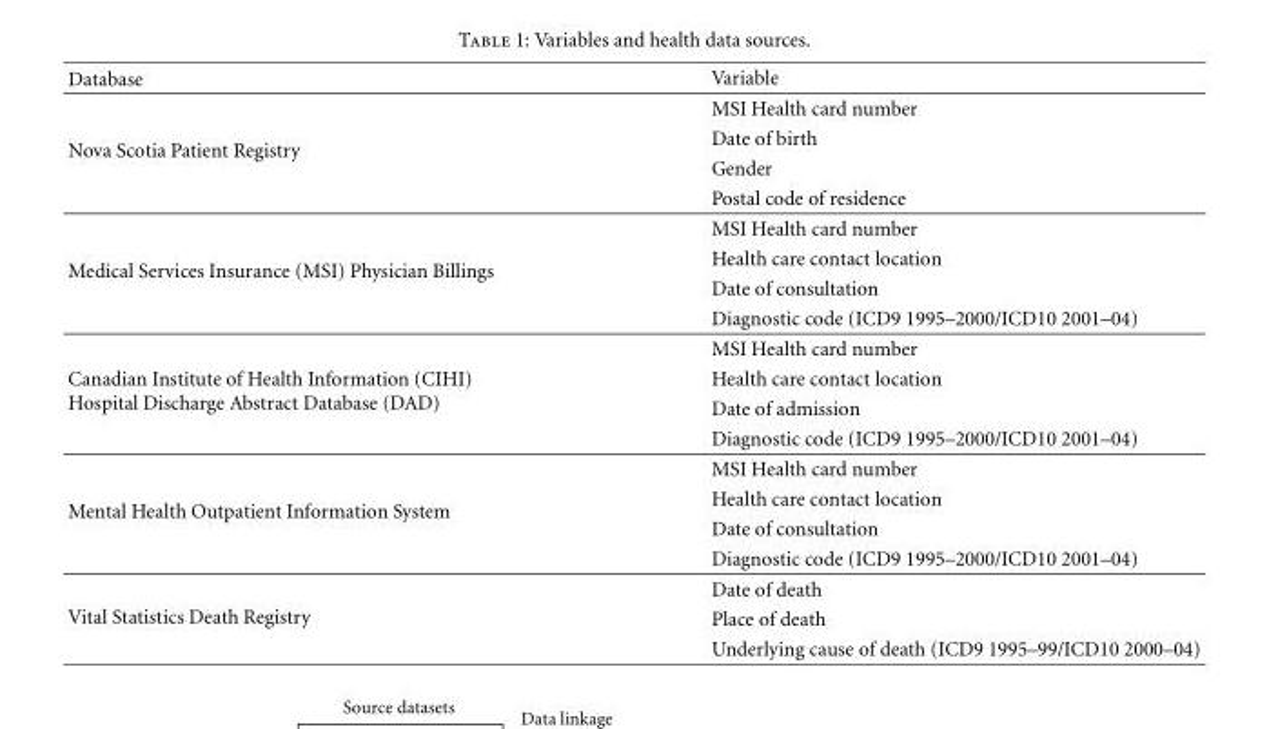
<table><thead><tr><td>Database</td><td>Variable</td></tr></thead><tbody><tr><td rowspan="4">Nova Scotia Patient Registry</td><td>MSI Health card number</td></tr><tr><td>Date of birth</td></tr><tr><td>Gender</td></tr><tr><td>Postal code of residence</td></tr><tr><td rowspan="4">Medical Services Insurance (MSI) Physician Billings</td><td>MSI Health card number</td></tr><tr><td>Health care contact location</td></tr><tr><td>Date of consultation</td></tr><tr><td>Diagnostic code (ICD9 1995–2000/ICD10 2001–04)</td></tr><tr><td rowspan="4">Canadian Institute of Health Information (CIHI) Hospital Discharge Abstract Database (DAD)</td><td>MSI Health card number</td></tr><tr><td>Health care contact location</td></tr><tr><td>Date of admission</td></tr><tr><td>Diagnostic code (ICD9 1995–2000/ICD10 2001–04)</td></tr><tr><td rowspan="4">Mental Health Outpatient Information System</td><td>MSI Health card number</td></tr><tr><td>Health care contact location</td></tr><tr><td>Date of consultation</td></tr><tr><td>Diagnostic code (ICD9 1995–2000/ICD10 2001–04)</td></tr><tr><td rowspan="3">Vital Statistics Death Registry</td><td>Date of death</td></tr><tr><td>Place of death</td></tr><tr><td>Underlying cause of death (ICD9 1995–99/ICD10 2000–04)</td></tr></tbody></table>